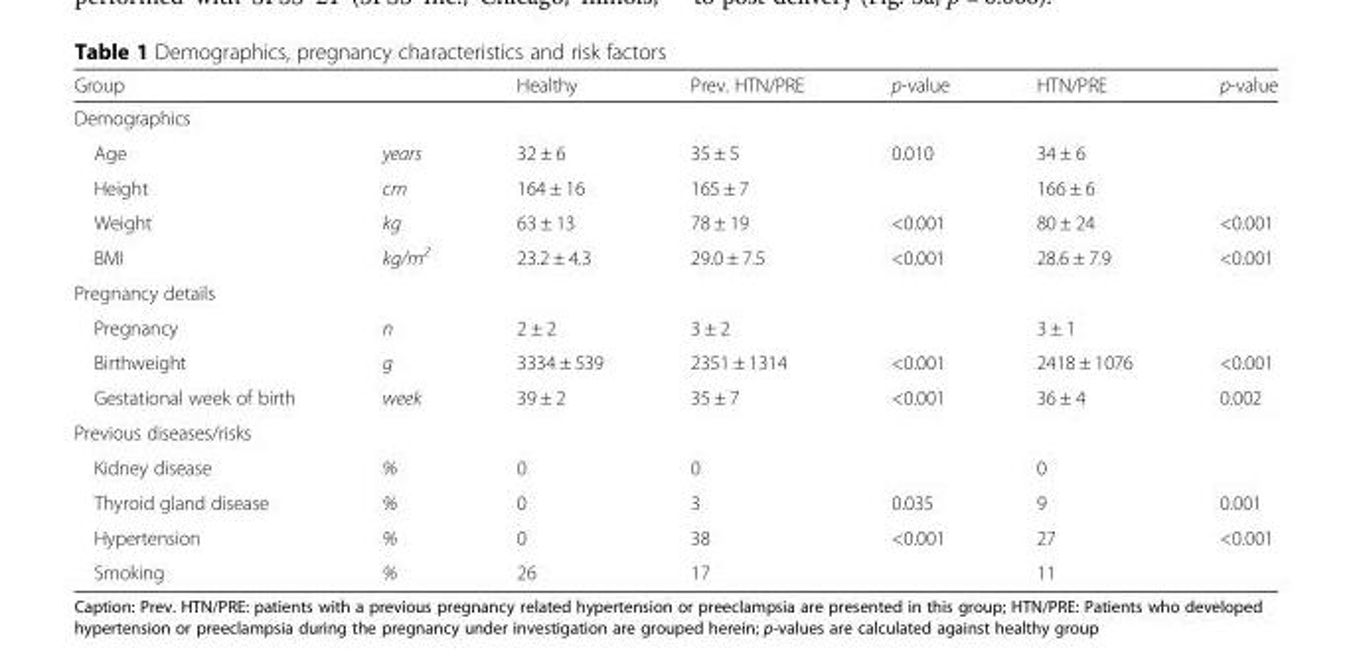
<table><thead><tr><td>Group</td><td></td><td>Healthy</td><td>Prev. HTN/PRE</td><td>p-value</td><td>HTN/PRE</td><td>p-value</td></tr></thead><tbody><tr><td colspan="7">Demographics</td></tr><tr><td>Age</td><td>years</td><td>32 ± 6</td><td>35 ± 5</td><td>0.010</td><td>34 ± 6</td><td></td></tr><tr><td>Height</td><td>cm</td><td>164 ± 16</td><td>165 ± 7</td><td></td><td>166 ± 6</td><td></td></tr><tr><td>Weight</td><td>kg</td><td>63 ± 13</td><td>78 ± 19</td><td>&lt;0.001</td><td>80 ± 24</td><td>&lt;0.001</td></tr><tr><td>BMI</td><td>kg/m<sup>2</sup></td><td>23.2 ± 4.3</td><td>29.0 ± 7.5</td><td>&lt;0.001</td><td>28.6 ± 7.9</td><td>&lt;0.001</td></tr><tr><td colspan="7">Pregnancy details</td></tr><tr><td>Pregnancy</td><td>n</td><td>2 ± 2</td><td>3 ± 2</td><td></td><td>3 ± 1</td><td></td></tr><tr><td>Birthweight</td><td>g</td><td>3334 ± 539</td><td>2351 ± 1314</td><td>&lt;0.001</td><td>2418 ± 1076</td><td>&lt;0.001</td></tr><tr><td>Gestational week of birth</td><td>week</td><td>39 ± 2</td><td>35 ± 7</td><td>&lt;0.001</td><td>36 ± 4</td><td>0.002</td></tr><tr><td colspan="7">Previous diseases/risks</td></tr><tr><td>Kidney disease</td><td>%</td><td>0</td><td>0</td><td></td><td>0</td><td></td></tr><tr><td>Thyroid gland disease</td><td>%</td><td>0</td><td>3</td><td>0.035</td><td>9</td><td>0.001</td></tr><tr><td>Hypertension</td><td>%</td><td>0</td><td>38</td><td>&lt;0.001</td><td>27</td><td>&lt;0.001</td></tr><tr><td>Smoking</td><td>%</td><td>26</td><td>17</td><td></td><td>11</td><td></td></tr></tbody></table>